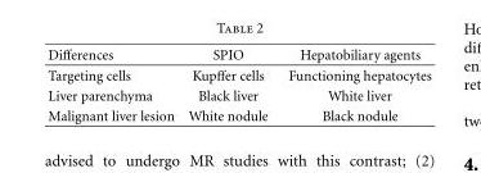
<table><thead><tr><td>Differences</td><td>SPIO</td><td>Hepatobiliary agents</td></tr></thead><tbody><tr><td>Targeting cells</td><td>Kupffer cells</td><td>Functioning hepatocytes</td></tr><tr><td>Liver parenchyma</td><td>Black liver</td><td>White liver</td></tr><tr><td>Malignant liver lesion</td><td>White nodule</td><td>Black nodule</td></tr></tbody></table>